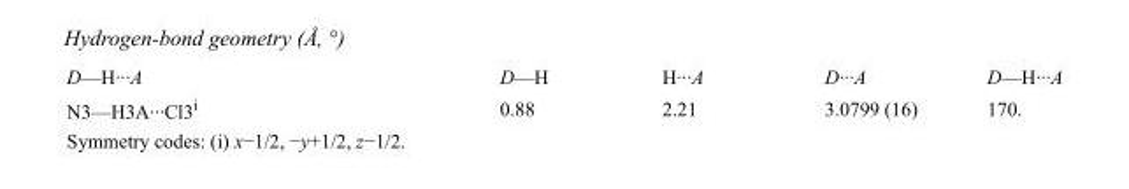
<table><tbody><tr><td>D—H···A</td><td>D—H</td><td>H···A</td><td>D···A</td><td>D—H···A</td></tr><tr><td>N3—H3A···Cl3<sup>i</sup></td><td>0.88</td><td>2.21</td><td>3.0799 (16)</td><td>170.</td></tr></tbody></table>